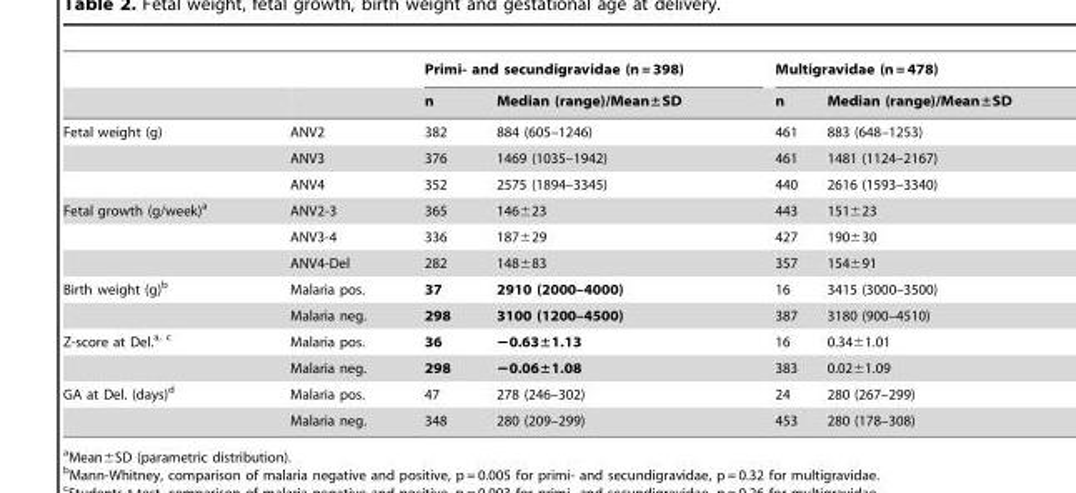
<table><thead><tr><td rowspan="2"></td><td rowspan="2"></td><td colspan="2">Primi- and secundigravidae (n = 398)</td><td colspan="2">Multigravidae (n = 478)</td></tr><tr><td>n</td><td>Median (range)/Mean±SD</td><td>n</td><td>Median (range)/Mean±SD</td></tr></thead><tbody><tr><td rowspan="3">Fetal weight (g)</td><td>ANV2</td><td>382</td><td>884 (605–1246)</td><td>461</td><td>883 (648–1253)</td></tr><tr><td>ANV3</td><td>376</td><td>1469 (1035–1942)</td><td>461</td><td>1481 (1124–2167)</td></tr><tr><td>ANV4</td><td>352</td><td>2575 (1894–3345)</td><td>440</td><td>2616 (1593–3340)</td></tr><tr><td rowspan="3">Fetal growth (g/week)<sup>a</sup></td><td>ANV2-3</td><td>365</td><td>146±23</td><td>443</td><td>151±23</td></tr><tr><td>ANV3-4</td><td>336</td><td>187±29</td><td>427</td><td>190±30</td></tr><tr><td>ANV4-Del</td><td>282</td><td>148±83</td><td>357</td><td>154±91</td></tr><tr><td rowspan="2">Birth weight (g)<sup>b</sup></td><td>Malaria pos.</td><td>37</td><td>2910 (2000–4000)</td><td>16</td><td>3415 (3000–3500)</td></tr><tr><td>Malaria neg.</td><td>298</td><td>3100 (1200–4500)</td><td>387</td><td>3180 (900–4510)</td></tr><tr><td rowspan="2">Z-score at Del.a, c</td><td>Malaria pos.</td><td>36</td><td>−0.63±1.13</td><td>16</td><td>0.34±1.01</td></tr><tr><td>Malaria neg.</td><td>298</td><td>−0.06±1.08</td><td>383</td><td>0.02±1.09</td></tr><tr><td rowspan="2">GA at Del. (days)<sup>d</sup></td><td>Malaria pos.</td><td>47</td><td>278 (246–302)</td><td>24</td><td>280 (267–299)</td></tr><tr><td>Malaria neg.</td><td>348</td><td>280 (209–299)</td><td>453</td><td>280 (178–308)</td></tr></tbody></table>